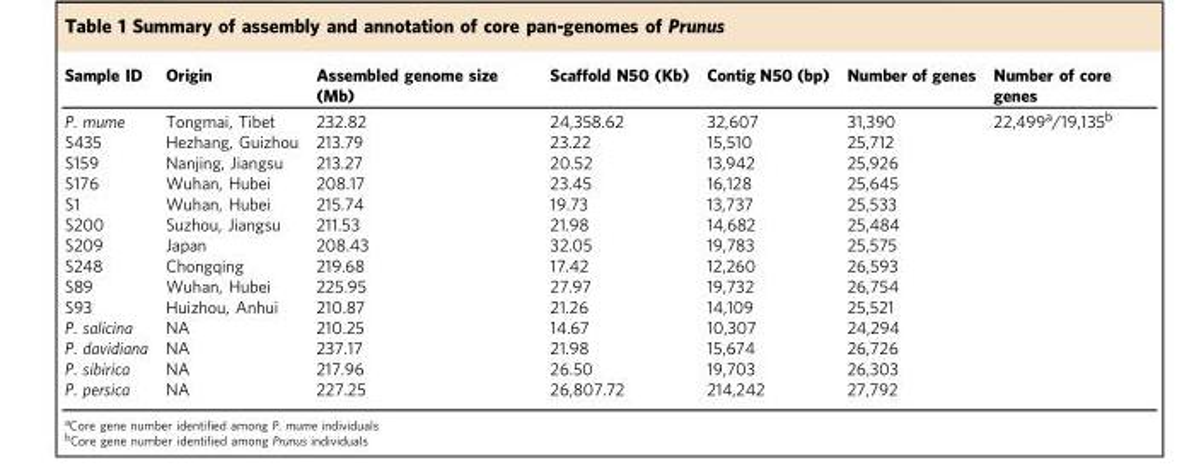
<table><thead><tr><td>Sample ID</td><td>Origin</td><td>Assembled genome size (Mb)</td><td>Scaffold N50 (Kb)</td><td>Contig N50 (bp)</td><td>Number of genes</td><td>Number of core genes</td></tr></thead><tbody><tr><td>P. mume</td><td>Tongmai, Tibet</td><td>232.82</td><td>24,358.62</td><td>32,607</td><td>31,390</td><td>22,499<sup>a</sup>/19,135<sup>b</sup></td></tr><tr><td>S435</td><td>Hezhang, Guizhou</td><td>213.79</td><td>23.22</td><td>15,510</td><td>25,712</td><td></td></tr><tr><td>S159</td><td>Nanjing, Jiangsu</td><td>213.27</td><td>20.52</td><td>13,942</td><td>25,926</td><td></td></tr><tr><td>S176</td><td>Wuhan, Hubei</td><td>208.17</td><td>23.45</td><td>16,128</td><td>25,645</td><td></td></tr><tr><td>S1</td><td>Wuhan, Hubei</td><td>215.74</td><td>19.73</td><td>13,737</td><td>25,533</td><td></td></tr><tr><td>S200</td><td>Suzhou, Jiangsu</td><td>211.53</td><td>21.98</td><td>14,682</td><td>25,484</td><td></td></tr><tr><td>S209</td><td>Japan</td><td>208.43</td><td>32.05</td><td>19,783</td><td>25,575</td><td></td></tr><tr><td>S248</td><td>Chongqing</td><td>219.68</td><td>17.42</td><td>12,260</td><td>26,593</td><td></td></tr><tr><td>S89</td><td>Wuhan, Hubei</td><td>225.95</td><td>27.97</td><td>19,732</td><td>26,754</td><td></td></tr><tr><td>S93</td><td>Huizhou, Anhui</td><td>210.87</td><td>21.26</td><td>14,109</td><td>25,521</td><td></td></tr><tr><td>P. salicina</td><td>NA</td><td>210.25</td><td>14.67</td><td>10,307</td><td>24,294</td><td></td></tr><tr><td>P. davidiana</td><td>NA</td><td>237.17</td><td>21.98</td><td>15,674</td><td>26,726</td><td></td></tr><tr><td>P. sibirica</td><td>NA</td><td>217.96</td><td>26.50</td><td>19,703</td><td>26,303</td><td></td></tr><tr><td>P. persica</td><td>NA</td><td>227.25</td><td>26,807.72</td><td>214,242</td><td>27,792</td><td></td></tr></tbody></table>